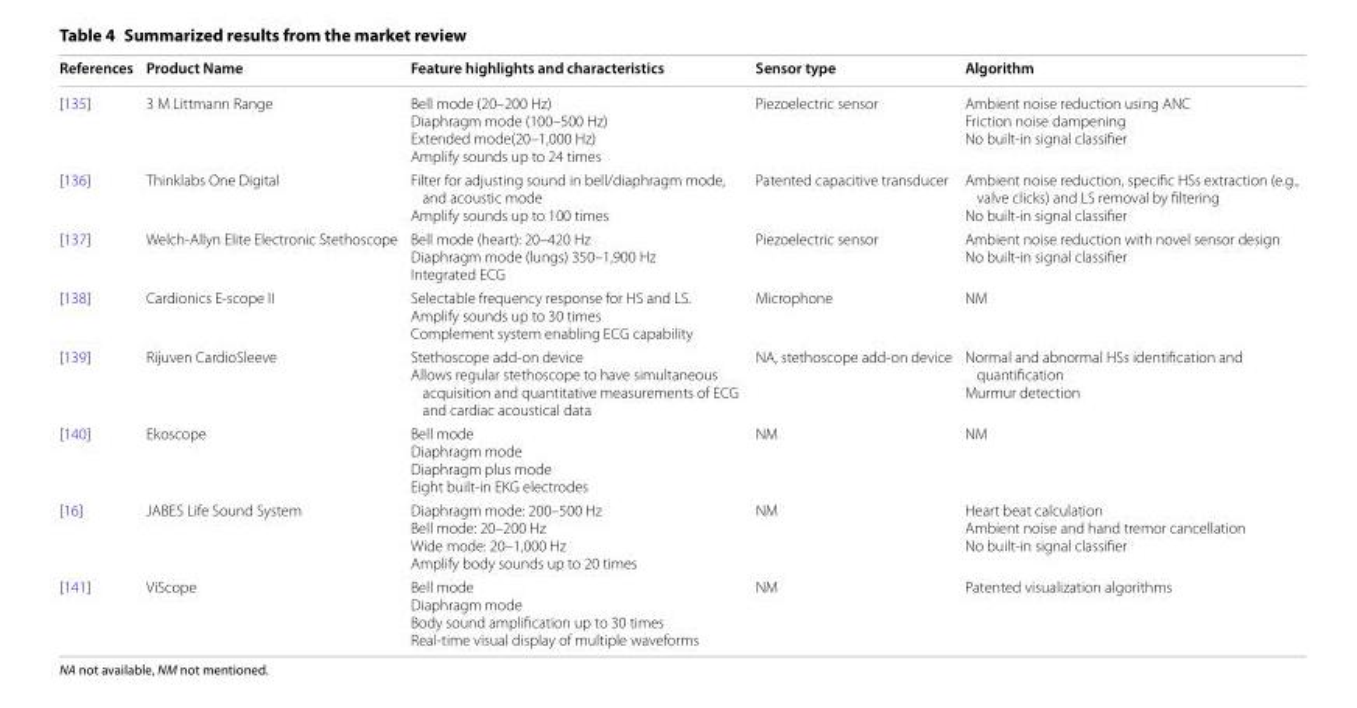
<table><thead><tr><td>References</td><td>Product Name</td><td>Feature highlights and characteristics</td><td>Sensor type</td><td>Algorithm</td></tr></thead><tbody><tr><td>[135]</td><td>3 M Littmann Range</td><td>Bell mode (20–200 Hz) Diaphragm mode (100–500 Hz) Extended mode(20–1,000 Hz) Amplify sounds up to 24 times</td><td>Piezoelectric sensor</td><td>Ambient noise reduction using ANC Friction noise dampening No built-in signal classifier</td></tr><tr><td>[136]</td><td>Thinklabs One Digital</td><td>Filter for adjusting sound in bell/diaphragm mode, and acoustic mode Amplify sounds up to 100 times</td><td>Patented capacitive transducer</td><td>Ambient noise reduction, specific HSs extraction (e.g., valve clicks) and LS removal by filtering No built-in signal classifier</td></tr><tr><td>[137]</td><td>Welch-Allyn Elite Electronic Stethoscope</td><td>Bell mode (heart): 20–420 Hz Diaphragm mode (lungs) 350–1,900 Hz Integrated ECG</td><td>Piezoelectric sensor</td><td>Ambient noise reduction with novel sensor design No built-in signal classifier</td></tr><tr><td>[138]</td><td>Cardionics E-scope II</td><td>Selectable frequency response for HS and LS. Amplify sounds up to 30 times Complement system enabling ECG capability</td><td>Microphone</td><td>NM</td></tr><tr><td>[139]</td><td>Rijuven CardioSleeve</td><td>Stethoscope add-on device Allows regular stethoscope to have simultaneous acquisition and quantitative measurements of ECG and cardiac acoustical data</td><td>NA, stethoscope add-on device</td><td>Normal and abnormal HSs identification and quantification Murmur detection</td></tr><tr><td>[140]</td><td>Ekoscope</td><td>Bell mode Diaphragm mode Diaphragm plus mode Eight built-in EKG electrodes</td><td>NM</td><td>NM</td></tr><tr><td>[16]</td><td>JABES Life Sound System</td><td>Diaphragm mode: 200–500 Hz Bell mode: 20–200 Hz Wide mode: 20–1,000 Hz Amplify body sounds up to 20 times</td><td>NM</td><td>Heart beat calculation Ambient noise and hand tremor cancellation No built-in signal classifier</td></tr><tr><td>[141]</td><td>ViScope</td><td>Bell mode Diaphragm mode Body sound amplification up to 30 times Real-time visual display of multiple waveforms</td><td>NM</td><td>Patented visualization algorithms</td></tr></tbody></table>